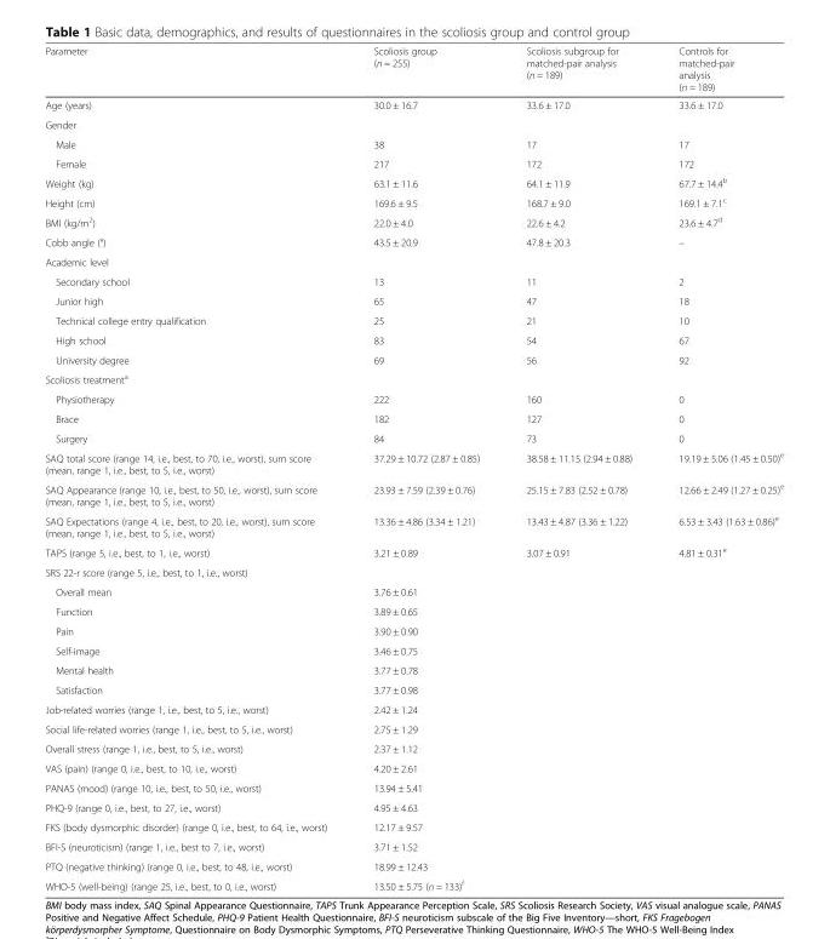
<table><thead><tr><td>Parameter</td><td>Scoliosis group (n = 255)</td><td>Scoliosis subgroup for matched-pair analysis (n = 189)</td><td>Controls for matched-pair analysis (n = 189)</td></tr></thead><tbody><tr><td>Age (years)</td><td>30.0 ± 16.7</td><td>33.6 ± 17.0</td><td>33.6 ± 17.0</td></tr><tr><td colspan="4">Gender</td></tr><tr><td>Male</td><td>38</td><td>17</td><td>17</td></tr><tr><td>Female</td><td>217</td><td>172</td><td>172</td></tr><tr><td>Weight (kg)</td><td>63.1 ± 11.6</td><td>64.1 ± 11.9</td><td>67.7 ± 14.4<sup>b</sup></td></tr><tr><td>Height (cm)</td><td>169.6 ± 9.5</td><td>168.7 ± 9.0</td><td>169.1 ± 7.1<sup>c</sup></td></tr><tr><td>BMI (kg/m<sup>2</sup>)</td><td>22.0 ± 4.0</td><td>22.6 ± 4.2</td><td>23.6 ± 4.7<sup>d</sup></td></tr><tr><td>Cobb angle (°)</td><td>43.5 ± 20.9</td><td>47.8 ± 20.3</td><td>–</td></tr><tr><td colspan="4">Academic level</td></tr><tr><td>Secondary school</td><td>13</td><td>11</td><td>2</td></tr><tr><td>Junior high</td><td>65</td><td>47</td><td>18</td></tr><tr><td>Technical college entry qualification</td><td>25</td><td>21</td><td>10</td></tr><tr><td>High school</td><td>83</td><td>54</td><td>67</td></tr><tr><td>University degree</td><td>69</td><td>56</td><td>92</td></tr><tr><td colspan="4">Scoliosis treatment<sup>a</sup></td></tr><tr><td>Physiotherapy</td><td>222</td><td>160</td><td>0</td></tr><tr><td>Brace</td><td>182</td><td>127</td><td>0</td></tr><tr><td>Surgery</td><td>84</td><td>73</td><td>0</td></tr><tr><td>SAQ total score (range 14, i.e., best, to 70, i.e., worst), sum score (mean, range 1, i.e., best, to 5, i.e., worst)</td><td>37.29 ± 10.72 (2.87 ± 0.85)</td><td>38.58 ± 11.15 (2.94 ± 0.88)</td><td>19.19 ± 5.06 (1.45 ± 0.50)<sup>e</sup></td></tr><tr><td>SAQ Appearance (range 10, i.e., best, to 50, i.e., worst), sum score (mean, range 1, i.e., best, to 5, i.e., worst)</td><td>23.93 ± 7.59 (2.39 ± 0.76)</td><td>25.15 ± 7.83 (2.52 ± 0.78)</td><td>12.66 ± 2.49 (1.27 ± 0.25)<sup>e</sup></td></tr><tr><td>SAQ Expectations (range 4, i.e., best, to 20, i.e., worst), sum score (mean, range 1, i.e., best, to 5, i.e., worst)</td><td>13.36 ± 4.86 (3.34 ± 1.21)</td><td>13.43 ± 4.87 (3.36 ± 1.22)</td><td>6.53 ± 3.43 (1.63 ± 0.86)<sup>e</sup></td></tr><tr><td>TAPS (range 5, i.e., best, to 1, i.e., worst)</td><td>3.21 ± 0.89</td><td>3.07 ± 0.91</td><td>4.81 ± 0.31<sup>e</sup></td></tr><tr><td colspan="4">SRS 22-r score (range 5, i.e., best, to 1, i.e., worst)</td></tr><tr><td>Overall mean</td><td>3.76 ± 0.61</td><td></td><td></td></tr><tr><td>Function</td><td>3.89 ± 0.65</td><td></td><td></td></tr><tr><td>Pain</td><td>3.90 ± 0.90</td><td></td><td></td></tr><tr><td>Self-image</td><td>3.46 ± 0.75</td><td></td><td></td></tr><tr><td>Mental health</td><td>3.77 ± 0.78</td><td></td><td></td></tr><tr><td>Satisfaction</td><td>3.77 ± 0.98</td><td></td><td></td></tr><tr><td>Job-related worries (range 1, i.e., best, to 5, i.e., worst)</td><td>2.42 ± 1.24</td><td></td><td></td></tr><tr><td>Social life-related worries (range 1, i.e., best, to 5, i.e., worst)</td><td>2.75 ± 1.29</td><td></td><td></td></tr><tr><td>Overall stress (range 1, i.e., best, to 5, i.e., worst)</td><td>2.37 ± 1.12</td><td></td><td></td></tr><tr><td>VAS (pain) (range 0, i.e., best, to 10, i.e., worst)</td><td>4.20 ± 2.61</td><td></td><td></td></tr><tr><td>PANAS (mood) (range 10, i.e., best, to 50, i.e., worst)</td><td>13.94 ± 5.41</td><td></td><td></td></tr><tr><td>PHQ-9 (range 0, i.e., best, to 27, i.e., worst)</td><td>4.95 ± 4.63</td><td></td><td></td></tr><tr><td>FKS (body dysmorphic disorder) (range 0, i.e., best, to 64, i.e., worst)</td><td>12.17 ± 9.57</td><td></td><td></td></tr><tr><td>BFI-S (neuroticism) (range 1, i.e., best to 7, i.e., worst)</td><td>3.71 ± 1.52</td><td></td><td></td></tr><tr><td>PTQ (negative thinking) (range 0, i.e., best, to 48, i.e., worst)</td><td>18.99 ± 12.43</td><td></td><td></td></tr><tr><td>WHO-5 (well-being) (range 25, i.e., best, to 0, i.e., worst)</td><td>13.50 ± 5.75 (n = 133)<sup>f</sup></td><td></td><td></td></tr></tbody></table>